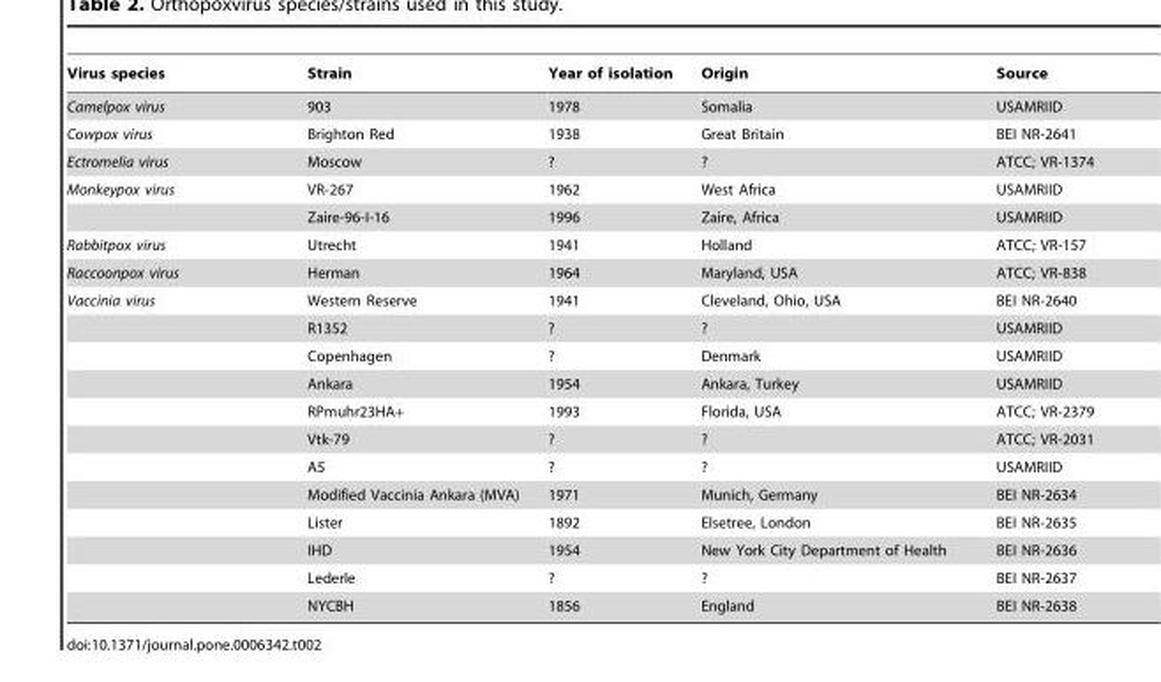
<table><thead><tr><td>Virus species</td><td>Strain</td><td>Year of isolation</td><td>Origin</td><td>Source</td></tr></thead><tbody><tr><td>Camelpox virus</td><td>903</td><td>1978</td><td>Somalia</td><td>USAMRIID</td></tr><tr><td>Cowpox virus</td><td>Brighton Red</td><td>1938</td><td>Great Britain</td><td>BEI NR-2641</td></tr><tr><td>Ectromelia virus</td><td>Moscow</td><td>?</td><td>?</td><td>ATCC; VR-1374</td></tr><tr><td rowspan="2">Monkeypox virus</td><td>VR-267</td><td>1962</td><td>West Africa</td><td>USAMRIID</td></tr><tr><td>Zaire-96-I-16</td><td>1996</td><td>Zaire, Africa</td><td>USAMRIID</td></tr><tr><td>Rabbitpox virus</td><td>Utrecht</td><td>1941</td><td>Holland</td><td>ATCC; VR-157</td></tr><tr><td>Raccoonpox virus</td><td>Herman</td><td>1964</td><td>Maryland, USA</td><td>ATCC; VR-838</td></tr><tr><td rowspan="12">Vaccinia virus</td><td>Western Reserve</td><td>1941</td><td>Cleveland, Ohio, USA</td><td>BEI NR-2640</td></tr><tr><td>R1352</td><td>?</td><td>?</td><td>USAMRIID</td></tr><tr><td>Copenhagen</td><td>?</td><td>Denmark</td><td>USAMRIID</td></tr><tr><td>Ankara</td><td>1954</td><td>Ankara, Turkey</td><td>USAMRIID</td></tr><tr><td>RPmuhr23HA+</td><td>1993</td><td>Florida, USA</td><td>ATCC; VR-2379</td></tr><tr><td>Vtk-79</td><td>?</td><td>?</td><td>ATCC; VR-2031</td></tr><tr><td>A5</td><td>?</td><td>?</td><td>USAMRIID</td></tr><tr><td>Modified Vaccinia Ankara (MVA)</td><td>1971</td><td>Munich, Germany</td><td>BEI NR-2634</td></tr><tr><td>Lister</td><td>1892</td><td>Elsetree, London</td><td>BEI NR-2635</td></tr><tr><td>IHD</td><td>1954</td><td>New York City Department of Health</td><td>BEI NR-2636</td></tr><tr><td>Lederle</td><td>?</td><td>?</td><td>BEI NR-2637</td></tr><tr><td>NYCBH</td><td>1856</td><td>England</td><td>BEI NR-2638</td></tr></tbody></table>